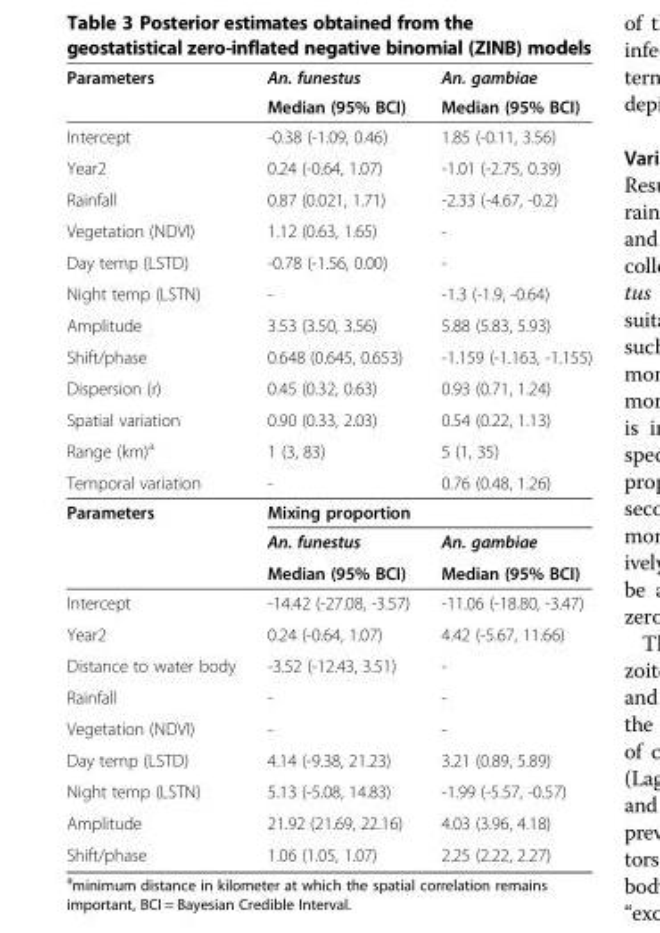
<table><thead><tr><td rowspan="2">Parameters</td><td rowspan="2">An. funestus Median (95% BCI)</td><td rowspan="2">An. gambiae Median (95% BCI)</td></tr><tr></tr></thead><tbody><tr><td>Intercept</td><td>-0.38 (-1.09, 0.46)</td><td>1.85 (-0.11, 3.56)</td></tr><tr><td>Year2</td><td>0.24 (-0.64, 1.07)</td><td>-1.01 (-2.75, 0.39)</td></tr><tr><td>Rainfall</td><td>0.87 (0.021, 1.71)</td><td>-2.33 (-4.67, -0.2)</td></tr><tr><td>Vegetation (NDVI)</td><td>1.12 (0.63, 1.65)</td><td>-</td></tr><tr><td>Day temp (LSTD)</td><td>-0.78 (-1.56, 0.00)</td><td>-</td></tr><tr><td>Night temp (LSTN)</td><td>-</td><td>-1.3 (-1.9, -0.64)</td></tr><tr><td>Amplitude</td><td>3.53 (3.50, 3.56)</td><td>5.88 (5.83, 5.93)</td></tr><tr><td>Shift/phase</td><td>0.648 (0.645, 0.653)</td><td>-1.159 (-1.163, -1.155)</td></tr><tr><td>Dispersion (r)</td><td>0.45 (0.32, 0.63)</td><td>0.93 (0.71, 1.24)</td></tr><tr><td>Spatial variation</td><td>0.90 (0.33, 2.03)</td><td>0.54 (0.22, 1.13)</td></tr><tr><td>Range (km)<sup>a</sup></td><td>1 (3, 83)</td><td>5 (1, 35)</td></tr><tr><td>Temporal variation</td><td>-</td><td>0.76 (0.48, 1.26)</td></tr><tr><td rowspan="3">Parameters</td><td colspan="2">Mixing proportion</td></tr><tr><td>An. funestus</td><td>An. gambiae</td></tr><tr><td>Median (95% BCI)</td><td>Median (95% BCI)</td></tr><tr><td>Intercept</td><td>-14.42 (-27.08, -3.57)</td><td>-11.06 (-18.80, -3.47)</td></tr><tr><td>Year2</td><td>0.24 (-0.64, 1.07)</td><td>4.42 (-5.67, 11.66)</td></tr><tr><td>Distance to water body</td><td>-3.52 (-12.43, 3.51)</td><td>-</td></tr><tr><td>Rainfall</td><td>-</td><td>-</td></tr><tr><td>Vegetation (NDVI)</td><td>-</td><td>-</td></tr><tr><td>Day temp (LSTD)</td><td>4.14 (-9.38, 21.23)</td><td>3.21 (0.89, 5.89)</td></tr><tr><td>Night temp (LSTN)</td><td>5.13 (-5.08, 14.83)</td><td>-1.99 (-5.57, -0.57)</td></tr><tr><td>Amplitude</td><td>21.92 (21.69, 22.16)</td><td>4.03 (3.96, 4.18)</td></tr><tr><td>Shift/phase</td><td>1.06 (1.05, 1.07)</td><td>2.25 (2.22, 2.27)</td></tr></tbody></table>